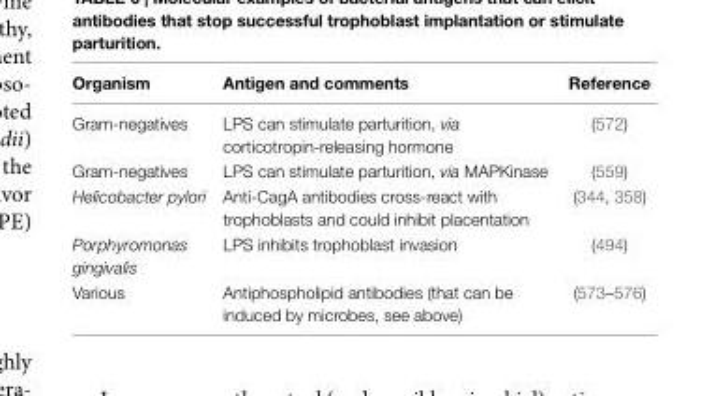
<table><thead><tr><td>Organism</td><td>Antigen and comments</td><td>Reference</td></tr></thead><tbody><tr><td>Gram-negatives</td><td>LPS can stimulate parturition, via corticotropin-releasing hormone</td><td>(572)</td></tr><tr><td>Gram-negatives</td><td>LPS can stimulate parturition, via MAPKinase</td><td>(559)</td></tr><tr><td>Helicobacter pylori</td><td>Anti-CagA antibodies cross-react with trophoblasts and could inhibit placentation</td><td>(344, 358)</td></tr><tr><td>Porphyromonas gingivalis</td><td>LPS inhibits trophoblast invasion</td><td>(494)</td></tr><tr><td>Various</td><td>Antiphospholipid antibodies (that can be induced by microbes, see above)</td><td>(573–576)</td></tr></tbody></table>